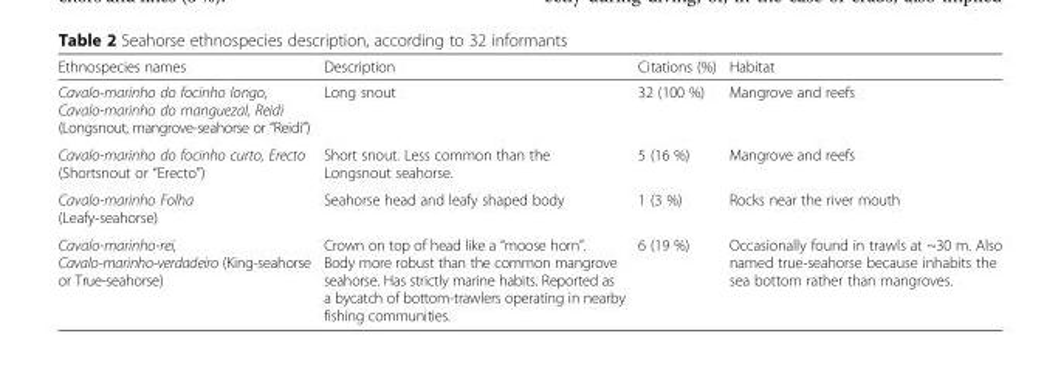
<table><thead><tr><td>Ethnospecies names</td><td>Description</td><td>Citations (%)</td><td>Habitat</td></tr></thead><tbody><tr><td>Cavalo-marinho do focinho longo, Cavalo-marinho do manguezal, Reidi (Longsnout, mangrove-seahorse or “Reidi”)</td><td>Long snout</td><td>32 (100 %)</td><td>Mangrove and reefs</td></tr><tr><td>Cavalo-marinho do focinho curto, Erecto (Shortsnout or “Erecto”)</td><td>Short snout. Less common than the Longsnout seahorse.</td><td>5 (16 %)</td><td>Mangrove and reefs</td></tr><tr><td>Cavalo-marinho Folha (Leafy-seahorse)</td><td>Seahorse head and leafy shaped body</td><td>1 (3 %)</td><td>Rocks near the river mouth</td></tr><tr><td>Cavalo-marinho-rei, Cavalo-marinho-verdadeiro (King-seahorse or True-seahorse)</td><td>Crown on top of head like a “moose horn”. Body more robust than the common mangrove seahorse. Has strictly marine habits. Reported as a bycatch of bottom-trawlers operating in nearby fishing communities.</td><td>6 (19 %)</td><td>Occasionally found in trawls at ~30 m. Also named true-seahorse because inhabits the sea bottom rather than mangroves.</td></tr></tbody></table>